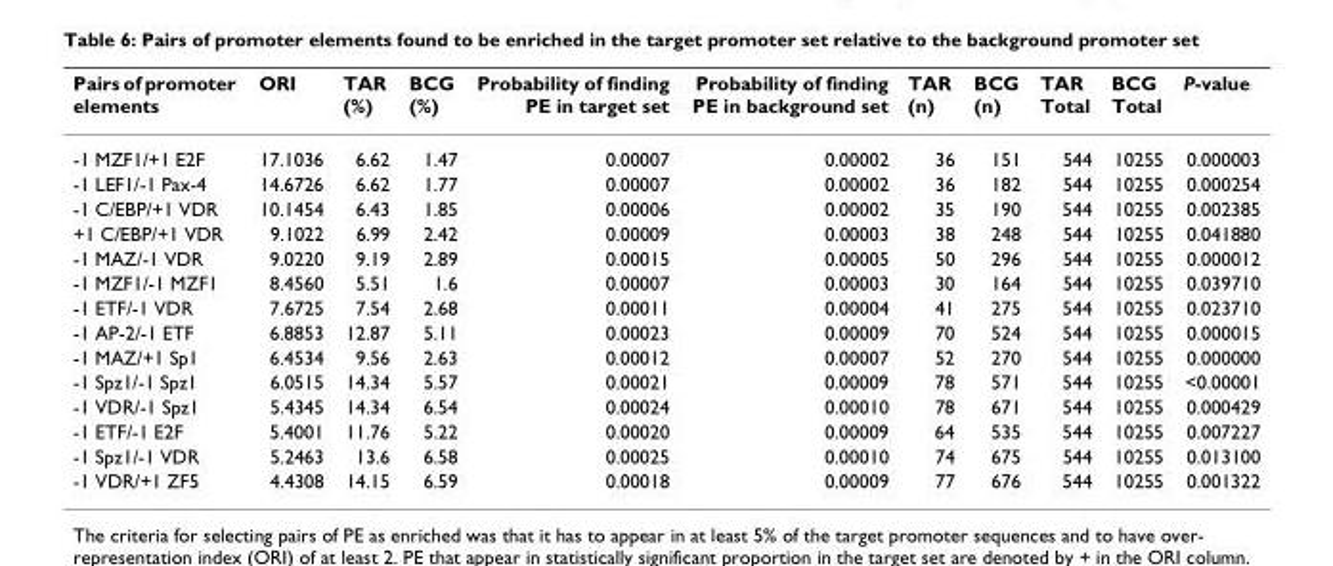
<table><thead><tr><td>Pairs of promoter elements</td><td>ORI</td><td>TAR (%)</td><td>BCG (%)</td><td>Probability of finding PE in target set</td><td>Probability of finding PE in background set</td><td>TAR (n)</td><td>BCG (n)</td><td>TAR Total</td><td>BCG Total</td><td>P-value</td></tr></thead><tbody><tr><td>-1 MZF1/+1 E2F</td><td>17.1036</td><td>6.62</td><td>1.47</td><td>0.00007</td><td>0.00002</td><td>36</td><td>151</td><td>544</td><td>10255</td><td>0.000003</td></tr><tr><td>-1 LEF1/-1 Pax-4</td><td>14.6726</td><td>6.62</td><td>1.77</td><td>0.00007</td><td>0.00002</td><td>36</td><td>182</td><td>544</td><td>10255</td><td>0.000254</td></tr><tr><td>-1 C/EBP/+1 VDR</td><td>10.1454</td><td>6.43</td><td>1.85</td><td>0.00006</td><td>0.00002</td><td>35</td><td>190</td><td>544</td><td>10255</td><td>0.002385</td></tr><tr><td>+1 C/EBP/+1 VDR</td><td>9.1022</td><td>6.99</td><td>2.42</td><td>0.00009</td><td>0.00003</td><td>38</td><td>248</td><td>544</td><td>10255</td><td>0.041880</td></tr><tr><td>-1 MAZ/-1 VDR</td><td>9.0220</td><td>9.19</td><td>2.89</td><td>0.00015</td><td>0.00005</td><td>50</td><td>296</td><td>544</td><td>10255</td><td>0.000012</td></tr><tr><td>-1 MZF1/-1 MZF1</td><td>8.4560</td><td>5.51</td><td>1.6</td><td>0.00007</td><td>0.00003</td><td>30</td><td>164</td><td>544</td><td>10255</td><td>0.039710</td></tr><tr><td>-1 ETF/-1 VDR</td><td>7.6725</td><td>7.54</td><td>2.68</td><td>0.00011</td><td>0.00004</td><td>41</td><td>275</td><td>544</td><td>10255</td><td>0.023710</td></tr><tr><td>-1 AP-2/-1 ETF</td><td>6.8853</td><td>12.87</td><td>5.11</td><td>0.00023</td><td>0.00009</td><td>70</td><td>524</td><td>544</td><td>10255</td><td>0.000015</td></tr><tr><td>-1 MAZ/+1 Sp1</td><td>6.4534</td><td>9.56</td><td>2.63</td><td>0.00012</td><td>0.00007</td><td>52</td><td>270</td><td>544</td><td>10255</td><td>0.000000</td></tr><tr><td>-1 Spz1/-1 Spz1</td><td>6.0515</td><td>14.34</td><td>5.57</td><td>0.00021</td><td>0.00009</td><td>78</td><td>571</td><td>544</td><td>10255</td><td>&lt;0.00001</td></tr><tr><td>-1 VDR/-1 Spz1</td><td>5.4345</td><td>14.34</td><td>6.54</td><td>0.00024</td><td>0.00010</td><td>78</td><td>671</td><td>544</td><td>10255</td><td>0.000429</td></tr><tr><td>-1 ETF/-1 E2F</td><td>5.4001</td><td>11.76</td><td>5.22</td><td>0.00020</td><td>0.00009</td><td>64</td><td>535</td><td>544</td><td>10255</td><td>0.007227</td></tr><tr><td>-1 Spz1/-1 VDR</td><td>5.2463</td><td>13.6</td><td>6.58</td><td>0.00025</td><td>0.00010</td><td>74</td><td>675</td><td>544</td><td>10255</td><td>0.013100</td></tr><tr><td>-1 VDR/+1 ZF5</td><td>4.4308</td><td>14.15</td><td>6.59</td><td>0.00018</td><td>0.00009</td><td>77</td><td>676</td><td>544</td><td>10255</td><td>0.001322</td></tr></tbody></table>